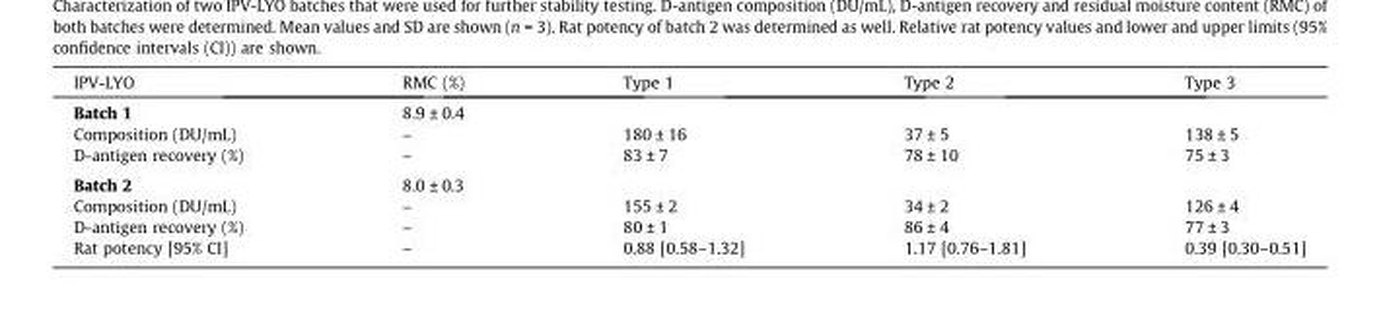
<table><thead><tr><td>IPV-LYO</td><td>RMC (%)</td><td>Type 1</td><td>Type 2</td><td>Type 3</td></tr></thead><tbody><tr><td>Batch 1</td><td>8.9 ± 0.4</td><td></td><td></td><td></td></tr><tr><td>Composition (DU/mL)</td><td>–</td><td>180 ± 16</td><td>37 ± 5</td><td>138 ± 5</td></tr><tr><td>D-antigen recovery (%)</td><td>–</td><td>83 ± 7</td><td>78 ± 10</td><td>75 ± 3</td></tr><tr><td>Batch 2</td><td>8.0 ± 0.3</td><td></td><td></td><td></td></tr><tr><td>Composition (DU/mL)</td><td>–</td><td>155 ± 2</td><td>34 ± 2</td><td>126 ± 4</td></tr><tr><td>D-antigen recovery (%)</td><td>–</td><td>80 ± 1</td><td>86 ± 4</td><td>77 ± 3</td></tr><tr><td>Rat potency [95% CI]</td><td>–</td><td>0.88 [0.58–1.32]</td><td>1.17 [0.76–1.81]</td><td>0.39 [0.30–0.51]</td></tr></tbody></table>